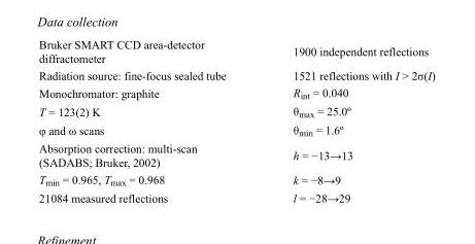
<table><tbody><tr><td>Bruker SMART CCD area-detector diffractometer</td><td>1900 independent reflections</td></tr><tr><td>Radiation source: fine-focus sealed tube</td><td>1521 reflections with I &gt; 2σ(I)</td></tr><tr><td>Monochromator: graphite</td><td>R<sub>int</sub> = 0.040</td></tr><tr><td>T = 123(2) K</td><td>θ<sub>max</sub> = 25.0º</td></tr><tr><td>φ and ω scans</td><td>θ<sub>min</sub> = 1.6º</td></tr><tr><td>Absorption correction: multi-scan (SADABS; Bruker, 2002)</td><td>h = −13→13</td></tr><tr><td>T<sub>min</sub> = 0.965, T<sub>max</sub> = 0.968</td><td>k = −8→9</td></tr><tr><td>21084 measured reflections</td><td>l = −28→29</td></tr></tbody></table>